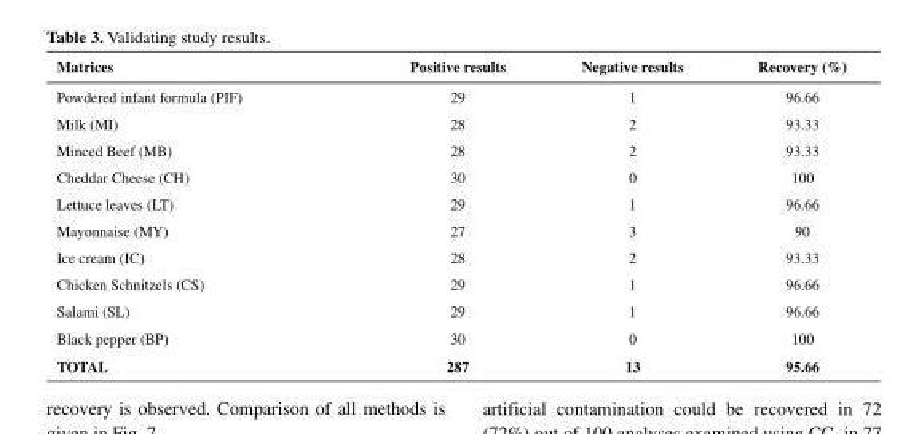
<table><thead><tr><td>Matrices</td><td>Positive results</td><td>Negative results</td><td>Recovery (%)</td></tr></thead><tbody><tr><td>Powdered infant formula (PIF)</td><td>29</td><td>1</td><td>96.66</td></tr><tr><td>Milk (MI)</td><td>28</td><td>2</td><td>93.33</td></tr><tr><td>Minced Beef (MB)</td><td>28</td><td>2</td><td>93.33</td></tr><tr><td>Cheddar Cheese (CH)</td><td>30</td><td>0</td><td>100</td></tr><tr><td>Lettuce leaves (LT)</td><td>29</td><td>1</td><td>96.66</td></tr><tr><td>Mayonnaise (MY)</td><td>27</td><td>3</td><td>90</td></tr><tr><td>Ice cream (IC)</td><td>28</td><td>2</td><td>93.33</td></tr><tr><td>Chicken Schnitzels (CS)</td><td>29</td><td>1</td><td>96.66</td></tr><tr><td>Salami (SL)</td><td>29</td><td>1</td><td>96.66</td></tr><tr><td>Black pepper (BP)</td><td>30</td><td>0</td><td>100</td></tr><tr><td>TOTAl</td><td>287</td><td>13</td><td>95.66</td></tr></tbody></table>